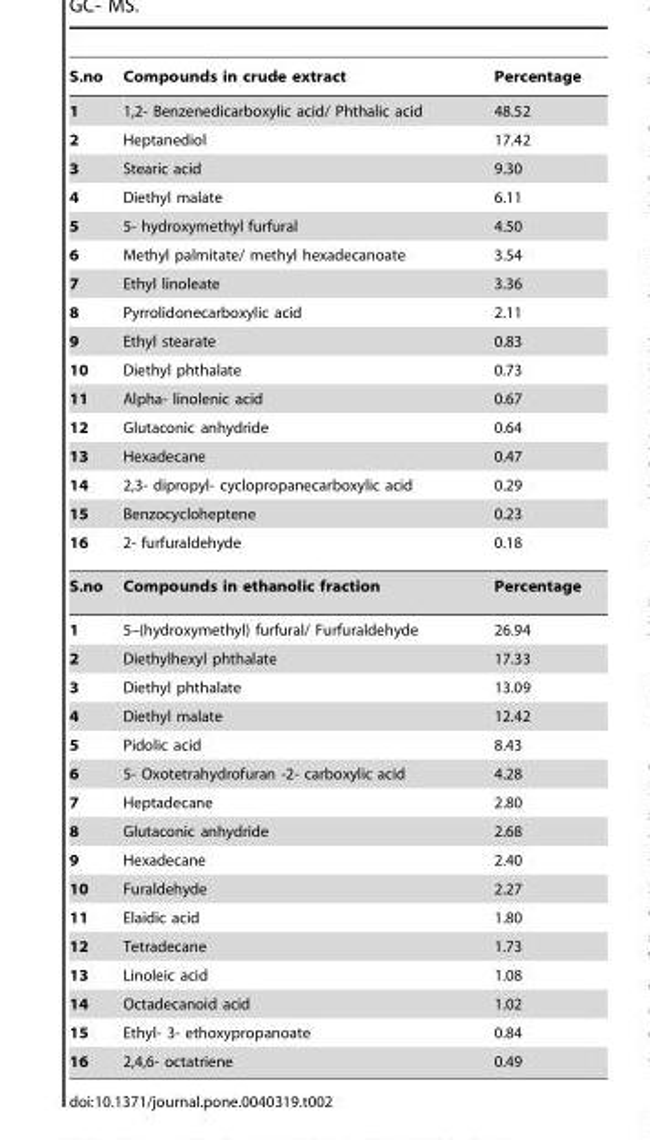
<table><thead><tr><td>S.no</td><td>Compounds in crude extract</td><td>Percentage</td></tr></thead><tbody><tr><td>1</td><td>1,2- Benzenedicarboxylic acid/ Phthalic acid</td><td>48.52</td></tr><tr><td>2</td><td>Heptanediol</td><td>17.42</td></tr><tr><td>3</td><td>Stearic acid</td><td>9.30</td></tr><tr><td>4</td><td>Diethyl malate</td><td>6.11</td></tr><tr><td>5</td><td>5- hydroxymethyl furfural</td><td>4.50</td></tr><tr><td>6</td><td>Methyl palmitate/ methyl hexadecanoate</td><td>3.54</td></tr><tr><td>7</td><td>Ethyl linoleate</td><td>3.36</td></tr><tr><td>8</td><td>Pyrrolidonecarboxylic acid</td><td>2.11</td></tr><tr><td>9</td><td>Ethyl stearate</td><td>0.83</td></tr><tr><td>10</td><td>Diethyl phthalate</td><td>0.73</td></tr><tr><td>11</td><td>Alpha- linolenic acid</td><td>0.67</td></tr><tr><td>12</td><td>Glutaconic anhydride</td><td>0.64</td></tr><tr><td>13</td><td>Hexadecane</td><td>0.47</td></tr><tr><td>14</td><td>2,3- dipropyl- cyclopropanecarboxylic acid</td><td>0.29</td></tr><tr><td>15</td><td>Benzocycloheptene</td><td>0.23</td></tr><tr><td>16</td><td>2- furfuraldehyde</td><td>0.18</td></tr><tr><td>S.no</td><td>Compounds in ethanolic fraction</td><td>Percentage</td></tr><tr><td>1</td><td>5–(hydroxymethyl) furfural/ Furfuraldehyde</td><td>26.94</td></tr><tr><td>2</td><td>Diethylhexyl phthalate</td><td>17.33</td></tr><tr><td>3</td><td>Diethyl phthalate</td><td>13.09</td></tr><tr><td>4</td><td>Diethyl malate</td><td>12.42</td></tr><tr><td>5</td><td>Pidolic acid</td><td>8.43</td></tr><tr><td>6</td><td>5- Oxotetrahydrofuran -2- carboxylic acid</td><td>4.28</td></tr><tr><td>7</td><td>Heptadecane</td><td>2.80</td></tr><tr><td>8</td><td>Glutaconic anhydride</td><td>2.68</td></tr><tr><td>9</td><td>Hexadecane</td><td>2.40</td></tr><tr><td>10</td><td>Furaldehyde</td><td>2.27</td></tr><tr><td>11</td><td>Elaidic acid</td><td>1.80</td></tr><tr><td>12</td><td>Tetradecane</td><td>1.73</td></tr><tr><td>13</td><td>Linoleic acid</td><td>1.08</td></tr><tr><td>14</td><td>Octadecanoid acid</td><td>1.02</td></tr><tr><td>15</td><td>Ethyl- 3- ethoxypropanoate</td><td>0.84</td></tr><tr><td>16</td><td>2,4,6- octatriene</td><td>0.49</td></tr></tbody></table>